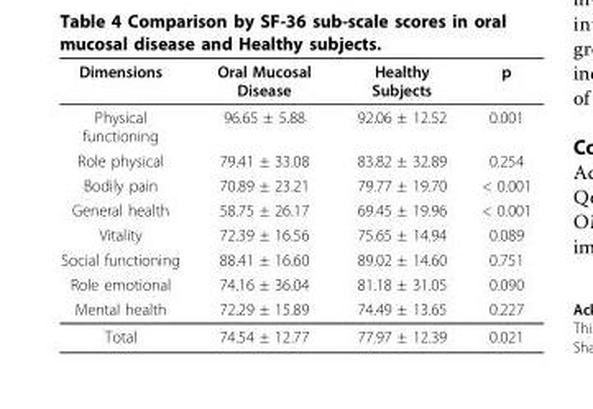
<table><thead><tr><td>Dimensions</td><td>Oral Mucosal Disease</td><td>Healthy Subjects</td><td>p</td></tr></thead><tbody><tr><td>Physical functioning</td><td>96.65 ± 5.88</td><td>92.06 ± 12.52</td><td>0.001</td></tr><tr><td>Role physical</td><td>79.41 ± 33.08</td><td>83.82 ± 32.89</td><td>0.254</td></tr><tr><td>Bodily pain</td><td>70.89 ± 23.21</td><td>79.77 ± 19.70</td><td>&lt; 0.001</td></tr><tr><td>General health</td><td>58.75 ± 26.17</td><td>69.45 ± 19.96</td><td>&lt; 0.001</td></tr><tr><td>Vitality</td><td>72.39 ± 16.56</td><td>75.65 ± 14.94</td><td>0.089</td></tr><tr><td>Social functioning</td><td>88.41 ± 16.60</td><td>89.02 ± 14.60</td><td>0.751</td></tr><tr><td>Role emotional</td><td>74.16 ± 36.04</td><td>81.18 ± 31.05</td><td>0.090</td></tr><tr><td>Mental health</td><td>72.29 ± 15.89</td><td>74.49 ± 13.65</td><td>0.227</td></tr><tr><td>Total</td><td>74.54 ± 12.77</td><td>77.97 ± 12.39</td><td>0.021</td></tr></tbody></table>